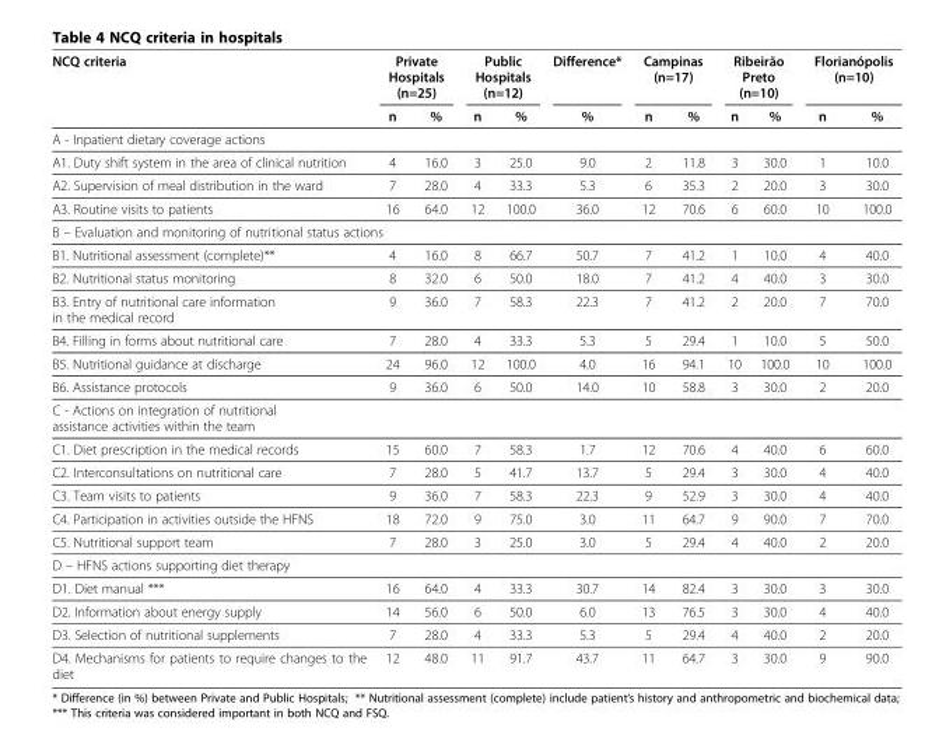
<table><thead><tr><td rowspan="2">NCQ criteria</td><td colspan="2">Private Hospitals (n=25)</td><td colspan="2">Public Hospitals (n=12)</td><td rowspan="2">Difference* %</td><td colspan="2">Campinas (n=17)</td><td colspan="2">Ribeirão Preto (n=10)</td><td colspan="2">Florianópolis (n=10)</td></tr><tr><td>n</td><td>%</td><td>n</td><td>%</td><td>n</td><td>%</td><td>n</td><td>%</td><td>n</td><td>%</td></tr></thead><tbody><tr><td colspan="12">A - Inpatient dietary coverage actions</td></tr><tr><td>A1. Duty shift system in the area of clinical nutrition</td><td>4</td><td>16.0</td><td>3</td><td>25.0</td><td>9.0</td><td>2</td><td>11.8</td><td>3</td><td>30.0</td><td>1</td><td>10.0</td></tr><tr><td>A2. Supervision of meal distribution in the ward</td><td>7</td><td>28.0</td><td>4</td><td>33.3</td><td>5.3</td><td>6</td><td>35.3</td><td>2</td><td>20.0</td><td>3</td><td>30.0</td></tr><tr><td>A3. Routine visits to patients</td><td>16</td><td>64.0</td><td>12</td><td>100.0</td><td>36.0</td><td>12</td><td>70.6</td><td>6</td><td>60.0</td><td>10</td><td>100.0</td></tr><tr><td colspan="12">B – Evaluation and monitoring of nutritional status actions</td></tr><tr><td>B1. Nutritional assessment (complete)**</td><td>4</td><td>16.0</td><td>8</td><td>66.7</td><td>50.7</td><td>7</td><td>41.2</td><td>1</td><td>10.0</td><td>4</td><td>40.0</td></tr><tr><td>B2. Nutritional status monitoring</td><td>8</td><td>32.0</td><td>6</td><td>50.0</td><td>18.0</td><td>7</td><td>41.2</td><td>4</td><td>40.0</td><td>3</td><td>30.0</td></tr><tr><td>B3. Entry of nutritional care information in the medical record</td><td>9</td><td>36.0</td><td>7</td><td>58.3</td><td>22.3</td><td>7</td><td>41.2</td><td>2</td><td>20.0</td><td>7</td><td>70.0</td></tr><tr><td>B4. Filling in forms about nutritional care</td><td>7</td><td>28.0</td><td>4</td><td>33.3</td><td>5.3</td><td>5</td><td>29.4</td><td>1</td><td>10.0</td><td>5</td><td>50.0</td></tr><tr><td>B5. Nutritional guidance at discharge</td><td>24</td><td>96.0</td><td>12</td><td>100.0</td><td>4.0</td><td>16</td><td>94.1</td><td>10</td><td>100.0</td><td>10</td><td>100.0</td></tr><tr><td>B6. Assistance protocols</td><td>9</td><td>36.0</td><td>6</td><td>50.0</td><td>14.0</td><td>10</td><td>58.8</td><td>3</td><td>30.0</td><td>2</td><td>20.0</td></tr><tr><td colspan="12">C - Actions on integration of nutritional assistance activities within the team</td></tr><tr><td>C1. Diet prescription in the medical records</td><td>15</td><td>60.0</td><td>7</td><td>58.3</td><td>1.7</td><td>12</td><td>70.6</td><td>4</td><td>40.0</td><td>6</td><td>60.0</td></tr><tr><td>C2. Interconsultations on nutritional care</td><td>7</td><td>28.0</td><td>5</td><td>41.7</td><td>13.7</td><td>5</td><td>29.4</td><td>3</td><td>30.0</td><td>4</td><td>40.0</td></tr><tr><td>C3. Team visits to patients</td><td>9</td><td>36.0</td><td>7</td><td>58.3</td><td>22.3</td><td>9</td><td>52.9</td><td>3</td><td>30.0</td><td>4</td><td>40.0</td></tr><tr><td>C4. Participation in activities outside the HFNS</td><td>18</td><td>72.0</td><td>9</td><td>75.0</td><td>3.0</td><td>11</td><td>64.7</td><td>9</td><td>90.0</td><td>7</td><td>70.0</td></tr><tr><td>C5. Nutritional support team</td><td>7</td><td>28.0</td><td>3</td><td>25.0</td><td>3.0</td><td>5</td><td>29.4</td><td>4</td><td>40.0</td><td>2</td><td>20.0</td></tr><tr><td colspan="12">D – HFNS actions supporting diet therapy</td></tr><tr><td>D1. Diet manual ***</td><td>16</td><td>64.0</td><td>4</td><td>33.3</td><td>30.7</td><td>14</td><td>82.4</td><td>3</td><td>30.0</td><td>3</td><td>30.0</td></tr><tr><td>D2. Information about energy supply</td><td>14</td><td>56.0</td><td>6</td><td>50.0</td><td>6.0</td><td>13</td><td>76.5</td><td>3</td><td>30.0</td><td>4</td><td>40.0</td></tr><tr><td>D3. Selection of nutritional supplements</td><td>7</td><td>28.0</td><td>4</td><td>33.3</td><td>5.3</td><td>5</td><td>29.4</td><td>4</td><td>40.0</td><td>2</td><td>20.0</td></tr><tr><td>D4. Mechanisms for patients to require changes to the diet</td><td>12</td><td>48.0</td><td>11</td><td>91.7</td><td>43.7</td><td>11</td><td>64.7</td><td>3</td><td>30.0</td><td>9</td><td>90.0</td></tr></tbody></table>